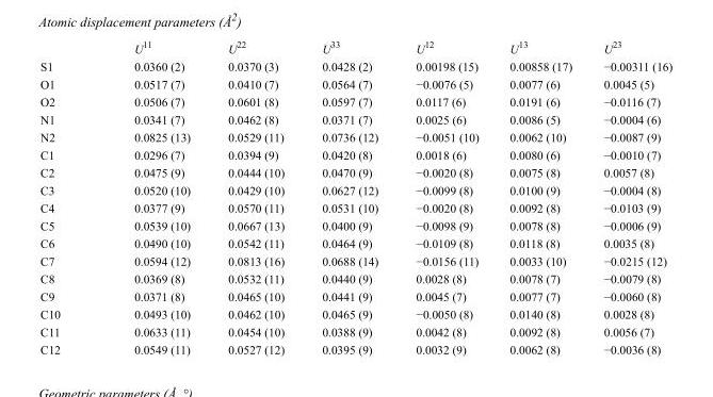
<table><thead><tr><td></td><td>U<sup>11</sup></td><td>U<sup>22</sup></td><td>U<sup>33</sup></td><td>U<sup>12</sup></td><td>U<sup>13</sup></td><td>U<sup>23</sup></td></tr></thead><tbody><tr><td>S1</td><td>0.0360 (2)</td><td>0.0370 (3)</td><td>0.0428 (2)</td><td>0.00198 (15)</td><td>0.00858 (17)</td><td>−0.00311 (16)</td></tr><tr><td>O1</td><td>0.0517 (7)</td><td>0.0410 (7)</td><td>0.0564 (7)</td><td>−0.0076 (5)</td><td>0.0077 (6)</td><td>0.0045 (5)</td></tr><tr><td>O2</td><td>0.0506 (7)</td><td>0.0601 (8)</td><td>0.0597 (7)</td><td>0.0117 (6)</td><td>0.0191 (6)</td><td>−0.0116 (7)</td></tr><tr><td>N1</td><td>0.0341 (7)</td><td>0.0462 (8)</td><td>0.0371 (7)</td><td>0.0025 (6)</td><td>0.0086 (5)</td><td>−0.0004 (6)</td></tr><tr><td>N2</td><td>0.0825 (13)</td><td>0.0529 (11)</td><td>0.0736 (12)</td><td>−0.0051 (10)</td><td>0.0062 (10)</td><td>−0.0087 (9)</td></tr><tr><td>C1</td><td>0.0296 (7)</td><td>0.0394 (9)</td><td>0.0420 (8)</td><td>0.0018 (6)</td><td>0.0080 (6)</td><td>−0.0010 (7)</td></tr><tr><td>C2</td><td>0.0475 (9)</td><td>0.0444 (10)</td><td>0.0470 (9)</td><td>−0.0020 (8)</td><td>0.0075 (8)</td><td>0.0057 (8)</td></tr><tr><td>C3</td><td>0.0520 (10)</td><td>0.0429 (10)</td><td>0.0627 (12)</td><td>−0.0099 (8)</td><td>0.0100 (9)</td><td>−0.0004 (8)</td></tr><tr><td>C4</td><td>0.0377 (9)</td><td>0.0570 (11)</td><td>0.0531 (10)</td><td>−0.0020 (8)</td><td>0.0092 (8)</td><td>−0.0103 (9)</td></tr><tr><td>C5</td><td>0.0539 (10)</td><td>0.0667 (13)</td><td>0.0400 (9)</td><td>−0.0098 (9)</td><td>0.0078 (8)</td><td>−0.0006 (9)</td></tr><tr><td>C6</td><td>0.0490 (10)</td><td>0.0542 (11)</td><td>0.0464 (9)</td><td>−0.0109 (8)</td><td>0.0118 (8)</td><td>0.0035 (8)</td></tr><tr><td>C7</td><td>0.0594 (12)</td><td>0.0813 (16)</td><td>0.0688 (14)</td><td>−0.0156 (11)</td><td>0.0033 (10)</td><td>−0.0215 (12)</td></tr><tr><td>C8</td><td>0.0369 (8)</td><td>0.0532 (11)</td><td>0.0440 (9)</td><td>0.0028 (8)</td><td>0.0078 (7)</td><td>−0.0079 (8)</td></tr><tr><td>C9</td><td>0.0371 (8)</td><td>0.0465 (10)</td><td>0.0441 (9)</td><td>0.0045 (7)</td><td>0.0077 (7)</td><td>−0.0060 (8)</td></tr><tr><td>C10</td><td>0.0493 (10)</td><td>0.0462 (10)</td><td>0.0465 (9)</td><td>−0.0050 (8)</td><td>0.0140 (8)</td><td>0.0028 (8)</td></tr><tr><td>C11</td><td>0.0633 (11)</td><td>0.0454 (10)</td><td>0.0388 (9)</td><td>0.0042 (8)</td><td>0.0092 (8)</td><td>0.0056 (7)</td></tr><tr><td>C12</td><td>0.0549 (11)</td><td>0.0527 (12)</td><td>0.0395 (9)</td><td>0.0032 (9)</td><td>0.0062 (8)</td><td>−0.0036 (8)</td></tr></tbody></table>